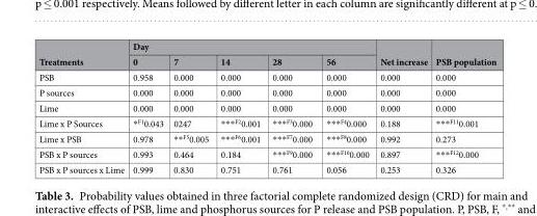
<table><thead><tr><td rowspan="2">Treatments</td><td colspan="5">Day</td><td rowspan="2">Net increase</td><td rowspan="2">PSB population</td></tr><tr><td>0</td><td>7</td><td>14</td><td>28</td><td>56</td></tr></thead><tbody><tr><td>PSB</td><td>0.958</td><td>0.000</td><td>0.000</td><td>0.000</td><td>0.000</td><td>0.000</td><td>0.000</td></tr><tr><td>P sources</td><td>0.000</td><td>0.000</td><td>0.000</td><td>0.000</td><td>0.000</td><td>0.000</td><td>0.000</td></tr><tr><td>Lime</td><td>0.000</td><td>0.000</td><td>0.000</td><td>0.000</td><td>0.000</td><td>0.000</td><td>0.000</td></tr><tr><td>Lime x P Sources</td><td>*<sup>F1</sup>0.043</td><td>0247</td><td>***<sup>F2</sup>0.001</td><td>***<sup>F3</sup>0.000</td><td>***<sup>F4</sup>0.000</td><td>0.188</td><td>***<sup>F11</sup>0.001</td></tr><tr><td>Lime x PSB</td><td>0.978</td><td>**<sup>F5</sup>0.005</td><td>***<sup>F6</sup>0.001</td><td>***<sup>F7</sup>0.000</td><td>***<sup>F8</sup>0.000</td><td>0.992</td><td>0.273</td></tr><tr><td>PSB x P sources</td><td>0.993</td><td>0.464</td><td>0.184</td><td>***<sup>F9</sup>0.000</td><td>***<sup>F10</sup>0.000</td><td>0.897</td><td>***<sup>F12</sup>0.000</td></tr><tr><td>PSB x P sources x Lime</td><td>0.999</td><td>0.830</td><td>0.751</td><td>0.761</td><td>0.056</td><td>0.253</td><td>0.326</td></tr></tbody></table>